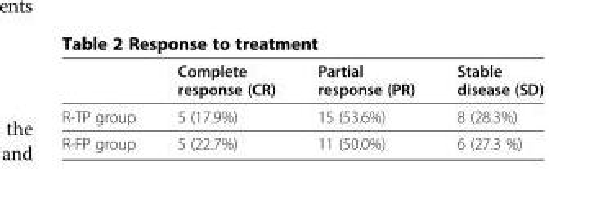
<table><thead><tr><td></td><td>Complete response (CR)</td><td>Partial response (PR)</td><td>Stable disease (SD)</td></tr></thead><tbody><tr><td>R-TP group</td><td>5 (17.9%)</td><td>15 (53.6%)</td><td>8 (28.3%)</td></tr><tr><td>R-FP group</td><td>5 (22.7%)</td><td>11 (50.0%)</td><td>6 (27.3 %)</td></tr></tbody></table>